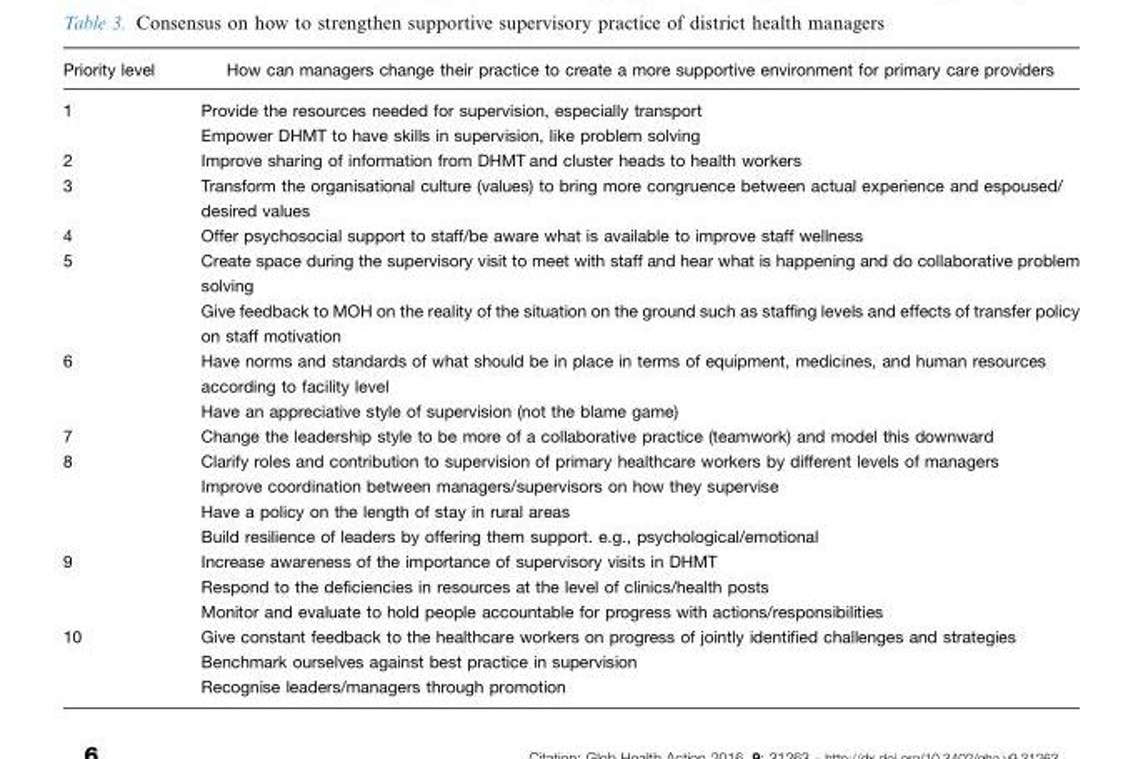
<table><thead><tr><td>Priority level</td><td>How can managers change their practice to create a more supportive environment for primary care providers</td></tr></thead><tbody><tr><td>1</td><td>Provide the resources needed for supervision, especially transport Empower DHMT to have skills in supervision, like problem solving</td></tr><tr><td>2</td><td>Improve sharing of information from DHMT and cluster heads to health workers</td></tr><tr><td>3</td><td>Transform the organisational culture (values) to bring more congruence between actual experience and espoused/ desired values</td></tr><tr><td>4</td><td>Offer psychosocial support to staff/be aware what is available to improve staff wellness</td></tr><tr><td>5</td><td>Create space during the supervisory visit to meet with staff and hear what is happening and do collaborative problem solving Give feedback to MOH on the reality of the situation on the ground such as staffing levels and effects of transfer policy on staff motivation</td></tr><tr><td>6</td><td>Have norms and standards of what should be in place in terms of equipment, medicines, and human resources according to facility level Have an appreciative style of supervision (not the blame game)</td></tr><tr><td>7</td><td>Change the leadership style to be more of a collaborative practice (teamwork) and model this downward</td></tr><tr><td>8</td><td>Clarify roles and contribution to supervision of primary healthcare workers by different levels of managers Improve coordination between managers/supervisors on how they supervise Have a policy on the length of stay in rural areas Build resilience of leaders by offering them support. e.g., psychological/emotional</td></tr><tr><td>9</td><td>Increase awareness of the importance of supervisory visits in DHMT Respond to the deficiencies in resources at the level of clinics/health posts Monitor and evaluate to hold people accountable for progress with actions/responsibilities</td></tr><tr><td>10</td><td>Give constant feedback to the healthcare workers on progress of jointly identified challenges and strategies Benchmark ourselves against best practice in supervision Recognise leaders/managers through promotion</td></tr></tbody></table>